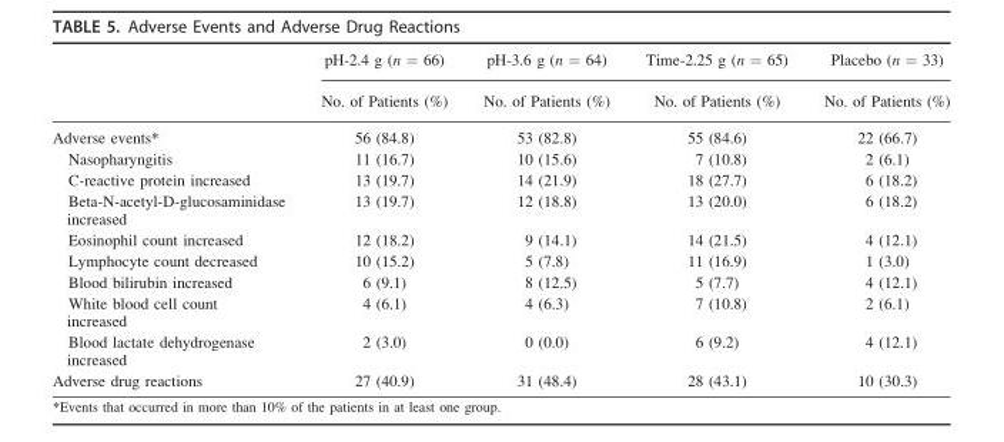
<table><thead><tr><td rowspan="2"></td><td rowspan="2">pH-2.4 g (n = 66) No. of Patients (%)</td><td rowspan="2">pH-3.6 g (n = 64) No. of Patients (%)</td><td rowspan="2">Time-2.25 g (n = 65) No. of Patients (%)</td><td rowspan="2">Placebo (n = 33) No. of Patients (%)</td></tr><tr></tr></thead><tbody><tr><td>Adverse events*</td><td>56 (84.8)</td><td>53 (82.8)</td><td>55 (84.6)</td><td>22 (66.7)</td></tr><tr><td>Nasopharyngitis</td><td>11 (16.7)</td><td>10 (15.6)</td><td>7 (10.8)</td><td>2 (6.1)</td></tr><tr><td>C-reactive protein increased</td><td>13 (19.7)</td><td>14 (21.9)</td><td>18 (27.7)</td><td>6 (18.2)</td></tr><tr><td>Beta-N-acetyl-D-glucosaminidase increased</td><td>13 (19.7)</td><td>12 (18.8)</td><td>13 (20.0)</td><td>6 (18.2)</td></tr><tr><td>Eosinophil count increased</td><td>12 (18.2)</td><td>9 (14.1)</td><td>14 (21.5)</td><td>4 (12.1)</td></tr><tr><td>Lymphocyte count decreased</td><td>10 (15.2)</td><td>5 (7.8)</td><td>11 (16.9)</td><td>1 (3.0)</td></tr><tr><td>Blood bilirubin increased</td><td>6 (9.1)</td><td>8 (12.5)</td><td>5 (7.7)</td><td>4 (12.1)</td></tr><tr><td>White blood cell count increased</td><td>4 (6.1)</td><td>4 (6.3)</td><td>7 (10.8)</td><td>2 (6.1)</td></tr><tr><td>Blood lactate dehydrogenase increased</td><td>2 (3.0)</td><td>0 (0.0)</td><td>6 (9.2)</td><td>4 (12.1)</td></tr><tr><td>Adverse drug reactions</td><td>27 (40.9)</td><td>31 (48.4)</td><td>28 (43.1)</td><td>10 (30.3)</td></tr></tbody></table>